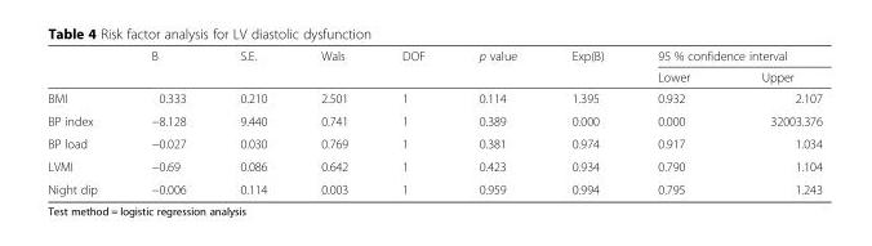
<table><thead><tr><td rowspan="2"></td><td rowspan="2">B</td><td rowspan="2">S.E.</td><td rowspan="2">Wals</td><td rowspan="2">DOF</td><td rowspan="2">p value</td><td rowspan="2">Exp(B)</td><td colspan="2">95 % confidence interval</td></tr><tr><td>Lower</td><td>Upper</td></tr></thead><tbody><tr><td>BMI</td><td>0.333</td><td>0.210</td><td>2.501</td><td>1</td><td>0.114</td><td>1.395</td><td>0.932</td><td>2.107</td></tr><tr><td>BP index</td><td>−8.128</td><td>9.440</td><td>0.741</td><td>1</td><td>0.389</td><td>0.000</td><td>0.000</td><td>32003.376</td></tr><tr><td>BP load</td><td>−0.027</td><td>0.030</td><td>0.769</td><td>1</td><td>0.381</td><td>0.974</td><td>0.917</td><td>1.034</td></tr><tr><td>LVMI</td><td>−0.69</td><td>0.086</td><td>0.642</td><td>1</td><td>0.423</td><td>0.934</td><td>0.790</td><td>1.104</td></tr><tr><td>Night dip</td><td>−0.006</td><td>0.114</td><td>0.003</td><td>1</td><td>0.959</td><td>0.994</td><td>0.795</td><td>1.243</td></tr></tbody></table>